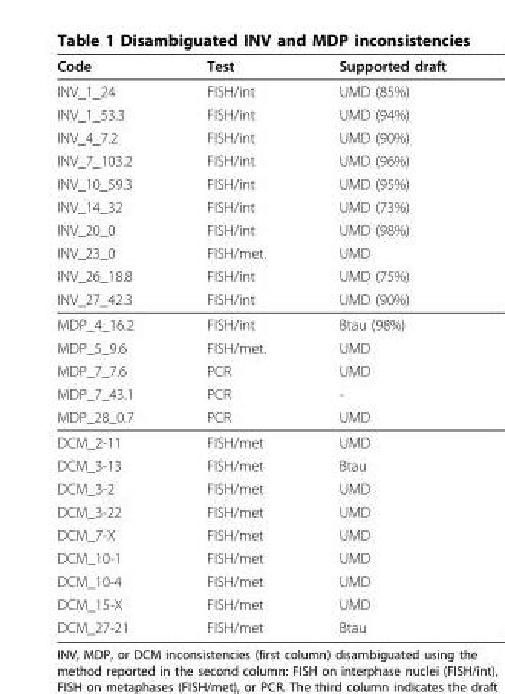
<table><thead><tr><td>Code</td><td>Test</td><td>Supported draft</td></tr></thead><tbody><tr><td>INV_1_24</td><td>FISH/int</td><td>UMD (85%)</td></tr><tr><td>INV_1_53.3</td><td>FISH/int</td><td>UMD (94%)</td></tr><tr><td>INV_4_7.2</td><td>FISH/int</td><td>UMD (90%)</td></tr><tr><td>INV_7_103.2</td><td>FISH/int</td><td>UMD (96%)</td></tr><tr><td>INV_10_59.3</td><td>FISH/int</td><td>UMD (95%)</td></tr><tr><td>INV_14_32</td><td>FISH/int</td><td>UMD (73%)</td></tr><tr><td>INV_20_0</td><td>FISH/int</td><td>UMD (98%)</td></tr><tr><td>INV_23_0</td><td>FISH/met.</td><td>UMD</td></tr><tr><td>INV_26_18.8</td><td>FISH/int</td><td>UMD (75%)</td></tr><tr><td>INV_27_42.3</td><td>FISH/int</td><td>UMD (90%)</td></tr><tr><td>MDP_4_16.2</td><td>FISH/int</td><td>Btau (98%)</td></tr><tr><td>MDP_5_9.6</td><td>FISH/met.</td><td>UMD</td></tr><tr><td>MDP_7_7.6</td><td>PCR</td><td>UMD</td></tr><tr><td>MDP_7_43.1</td><td>PCR</td><td>-</td></tr><tr><td>MDP_28_0.7</td><td>PCR</td><td>UMD</td></tr><tr><td>DCM_2-11</td><td>FISH/met</td><td>UMD</td></tr><tr><td>DCM_3-13</td><td>FISH/met</td><td>Btau</td></tr><tr><td>DCM_3-2</td><td>FISH/met</td><td>UMD</td></tr><tr><td>DCM_3-22</td><td>FISH/met</td><td>UMD</td></tr><tr><td>DCM_7-X</td><td>FISH/met</td><td>UMD</td></tr><tr><td>DCM_10-1</td><td>FISH/met</td><td>UMD</td></tr><tr><td>DCM_10-4</td><td>FISH/met</td><td>UMD</td></tr><tr><td>DCM_15-X</td><td>FISH/met</td><td>UMD</td></tr><tr><td>DCM_27-21</td><td>FISH/met</td><td>Btau</td></tr></tbody></table>